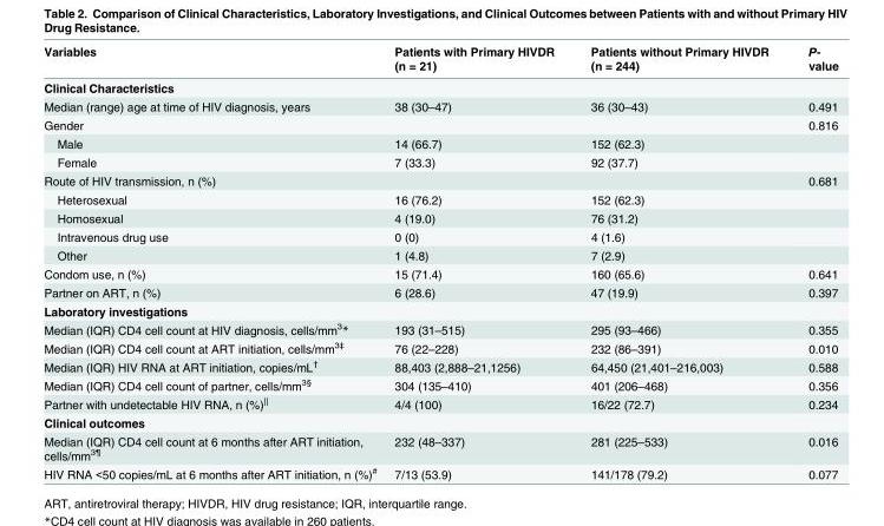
<table><thead><tr><td>Variables</td><td>Patients with Primary HIVDR (n = 21)</td><td>Patients without Primary HIVDR (n = 244)</td><td>P- value</td></tr></thead><tbody><tr><td colspan="4">Clinical Characteristics</td></tr><tr><td>Median (range) age at time of HIV diagnosis, years</td><td>38 (30–47)</td><td>36 (30–43)</td><td>0.491</td></tr><tr><td>Gender</td><td></td><td></td><td>0.816</td></tr><tr><td>Male</td><td>14 (66.7)</td><td>152 (62.3)</td><td></td></tr><tr><td>Female</td><td>7 (33.3)</td><td>92 (37.7)</td><td></td></tr><tr><td>Route of HIV transmission, n (%)</td><td></td><td></td><td>0.681</td></tr><tr><td>Heterosexual</td><td>16 (76.2)</td><td>152 (62.3)</td><td></td></tr><tr><td>Homosexual</td><td>4 (19.0)</td><td>76 (31.2)</td><td></td></tr><tr><td>Intravenous drug use</td><td>0 (0)</td><td>4 (1.6)</td><td></td></tr><tr><td>Other</td><td>1 (4.8)</td><td>7 (2.9)</td><td></td></tr><tr><td>Condom use, n (%)</td><td>15 (71.4)</td><td>160 (65.6)</td><td>0.641</td></tr><tr><td>Partner on ART, n (%)</td><td>6 (28.6)</td><td>47 (19.9)</td><td>0.397</td></tr><tr><td colspan="4">Laboratory investigations</td></tr><tr><td>Median (IQR) CD4 cell count at HIV diagnosis, cells/mm<sup>3</sup>*</td><td>193 (31–515)</td><td>295 (93–466)</td><td>0.355</td></tr><tr><td>Median (IQR) CD4 cell count at ART initiation, cells/mm<sup>3‡</sup></td><td>76 (22–228)</td><td>232 (86–391)</td><td>0.010</td></tr><tr><td>Median (IQR) HIV RNA at ART initiation, copies/mL<sup>†</sup></td><td>88,403 (2,888–21,1256)</td><td>64,450 (21,401–216,003)</td><td>0.588</td></tr><tr><td>Median (IQR) CD4 cell count of partner, cells/mm<sup>3§</sup></td><td>304 (135–410)</td><td>401 (206–468)</td><td>0.356</td></tr><tr><td>Partner with undetectable HIV RNA, n (%)<sup>||</sup></td><td>4/4 (100)</td><td>16/22 (72.7)</td><td>0.234</td></tr><tr><td colspan="4">Clinical outcomes</td></tr><tr><td>Median (IQR) CD4 cell count at 6 months after ART initiation, cells/mm<sup>3¶</sup></td><td>232 (48–337)</td><td>281 (225–533)</td><td>0.016</td></tr><tr><td>HIV RNA &lt;50 copies/mL at 6 months after ART initiation, n (%)<sup>#</sup></td><td>7/13 (53.9)</td><td>141/178 (79.2)</td><td>0.077</td></tr></tbody></table>